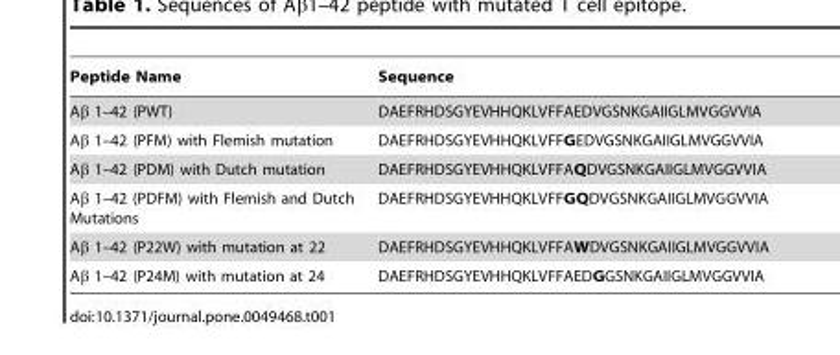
<table><thead><tr><td>Peptide Name</td><td>Sequence</td></tr></thead><tbody><tr><td>Aβ 1–42 (PWT)</td><td>DAEFRHDSGYEVHHQKLVFFAEDVGSNKGAIIGLMVGGVVIA</td></tr><tr><td>Aβ 1–42 (PFM) with Flemish mutation</td><td>DAEFRHDSGYEVHHQKLVFFGEDVGSNKGAIIGLMVGGVVIA</td></tr><tr><td>Aβ 1–42 (PDM) with Dutch mutation</td><td>DAEFRHDSGYEVHHQKLVFFAQDVGSNKGAIIGLMVGGVVIA</td></tr><tr><td>Aβ 1–42 (PDFM) with Flemish and Dutch Mutations</td><td>DAEFRHDSGYEVHHQKLVFFGQDVGSNKGAIIGLMVGGVVIA</td></tr><tr><td>Aβ 1–42 (P22W) with mutation at 22</td><td>DAEFRHDSGYEVHHQKLVFFAWDVGSNKGAIIGLMVGGVVIA</td></tr><tr><td>Aβ 1–42 (P24M) with mutation at 24</td><td>DAEFRHDSGYEVHHQKLVFFAEDGGSNKGAIIGLMVGGVVIA</td></tr></tbody></table>